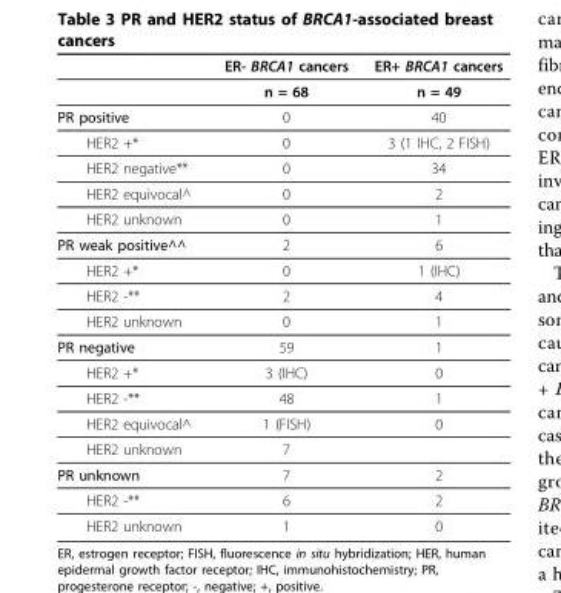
<table><thead><tr><td></td><td>ER- BRCA1 cancers</td><td>ER+ BRCA1 cancers</td></tr></thead><tbody><tr><td></td><td>n = 68</td><td>n = 49</td></tr><tr><td>PR positive</td><td>0</td><td>40</td></tr><tr><td>HER2 +*</td><td>0</td><td>3 (1 IHC, 2 FISH)</td></tr><tr><td>HER2 negative**</td><td>0</td><td>34</td></tr><tr><td>HER2 equivocal^</td><td>0</td><td>2</td></tr><tr><td>HER2 unknown</td><td>0</td><td>1</td></tr><tr><td>PR weak positive^^</td><td>2</td><td>6</td></tr><tr><td>HER2 +*</td><td>0</td><td>1 (IHC)</td></tr><tr><td>HER2 -**</td><td>2</td><td>4</td></tr><tr><td>HER2 unknown</td><td>0</td><td>1</td></tr><tr><td>PR negative</td><td>59</td><td>1</td></tr><tr><td>HER2 +*</td><td>3 (IHC)</td><td>0</td></tr><tr><td>HER2 -**</td><td>48</td><td>1</td></tr><tr><td>HER2 equivocal^</td><td>1 (FISH)</td><td>0</td></tr><tr><td>HER2 unknown</td><td>7</td><td></td></tr><tr><td>PR unknown</td><td>7</td><td>2</td></tr><tr><td>HER2 -**</td><td>6</td><td>2</td></tr><tr><td>HER2 unknown</td><td>1</td><td>0</td></tr></tbody></table>